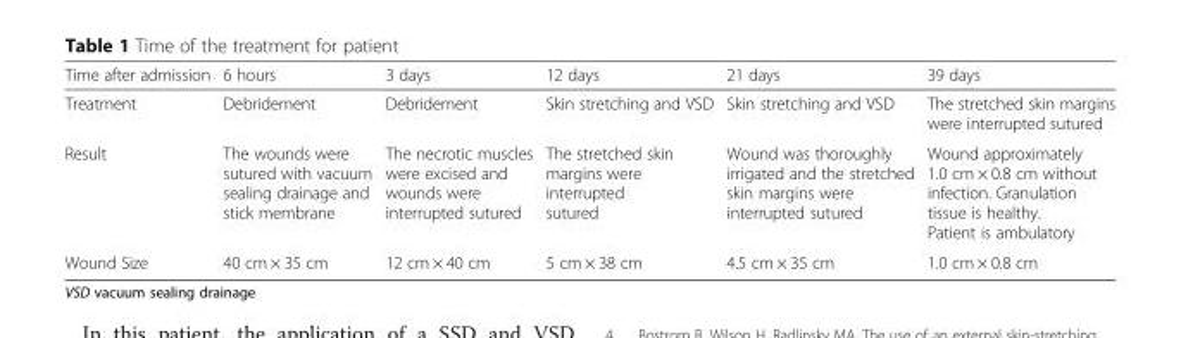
<table><thead><tr><td>Time after admission</td><td>6 hours</td><td>3 days</td><td>12 days</td><td>21 days</td><td>39 days</td></tr></thead><tbody><tr><td>Treatment</td><td>Debridement</td><td>Debridement</td><td>Skin stretching and VSD</td><td>Skin stretching and VSD</td><td>The stretched skin margins were interrupted sutured</td></tr><tr><td>Result</td><td>The wounds were sutured with vacuum sealing drainage and stick membrane</td><td>The necrotic muscles were excised and wounds were interrupted sutured</td><td>The stretched skin margins were interrupted sutured</td><td>Wound was thoroughly irrigated and the stretched skin margins were interrupted sutured</td><td>Wound approximately 1.0 cm × 0.8 cm without infection. Granulation tissue is healthy. Patient is ambulatory</td></tr><tr><td>Wound Size</td><td>40 cm × 35 cm</td><td>12 cm × 40 cm</td><td>5 cm × 38 cm</td><td>4.5 cm × 35 cm</td><td>1.0 cm × 0.8 cm</td></tr></tbody></table>